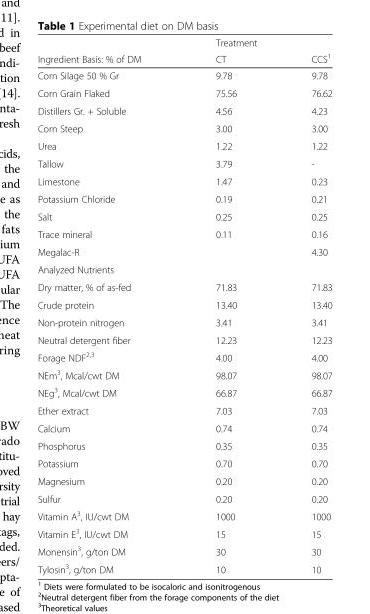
<table><thead><tr><td rowspan="2">Ingredient Basis: % of DM</td><td colspan="2">Treatment</td></tr><tr><td>CT</td><td>CCS<sup>1</sup></td></tr></thead><tbody><tr><td>Corn Silage 50 % Gr</td><td>9.78</td><td>9.78</td></tr><tr><td>Corn Grain Flaked</td><td>75.56</td><td>76.62</td></tr><tr><td>Distillers Gr. + Soluble</td><td>4.56</td><td>4.23</td></tr><tr><td>Corn Steep</td><td>3.00</td><td>3.00</td></tr><tr><td>Urea</td><td>1.22</td><td>1.22</td></tr><tr><td>Tallow</td><td>3.79</td><td>-</td></tr><tr><td>Limestone</td><td>1.47</td><td>0.23</td></tr><tr><td>Potassium Chloride</td><td>0.19</td><td>0.21</td></tr><tr><td>Salt</td><td>0.25</td><td>0.25</td></tr><tr><td>Trace mineral</td><td>0.11</td><td>0.16</td></tr><tr><td>Megalac-R</td><td></td><td>4.30</td></tr><tr><td colspan="3">Analyzed Nutrients</td></tr><tr><td>Dry matter, % of as-fed</td><td>71.83</td><td>71.83</td></tr><tr><td>Crude protein</td><td>13.40</td><td>13.40</td></tr><tr><td>Non-protein nitrogen</td><td>3.41</td><td>3.41</td></tr><tr><td>Neutral detergent fiber</td><td>12.23</td><td>12.23</td></tr><tr><td>Forage NDF<sup>2,3</sup></td><td>4.00</td><td>4.00</td></tr><tr><td>NEm<sup>3</sup>, Mcal/cwt DM</td><td>98.07</td><td>98.07</td></tr><tr><td>NEg<sup>3</sup>, Mcal/cwt DM</td><td>66.87</td><td>66.87</td></tr><tr><td>Ether extract</td><td>7.03</td><td>7.03</td></tr><tr><td>Calcium</td><td>0.74</td><td>0.74</td></tr><tr><td>Phosphorus</td><td>0.35</td><td>0.35</td></tr><tr><td>Potassium</td><td>0.70</td><td>0.70</td></tr><tr><td>Magnesium</td><td>0.20</td><td>0.20</td></tr><tr><td>Sulfur</td><td>0.20</td><td>0.20</td></tr><tr><td>Vitamin A<sup>3</sup>, IU/cwt DM</td><td>1000</td><td>1000</td></tr><tr><td>Vitamin E<sup>3</sup>, IU/cwt DM</td><td>15</td><td>15</td></tr><tr><td>Monensin<sup>3</sup>, g/ton DM</td><td>30</td><td>30</td></tr><tr><td>Tylosin<sup>3</sup>, g/ton DM</td><td>10</td><td>10</td></tr></tbody></table>